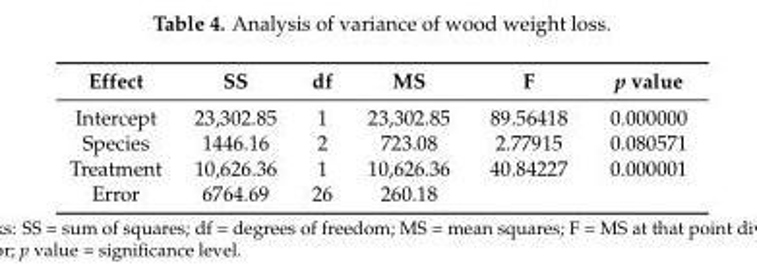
<table><thead><tr><td>Effect</td><td>SS</td><td>df</td><td>MS</td><td>F</td><td>p value</td></tr></thead><tbody><tr><td>Intercept</td><td>23,302.85</td><td>1</td><td>23,302.85</td><td>89.56418</td><td>0.000000</td></tr><tr><td>Species</td><td>1446.16</td><td>2</td><td>723.08</td><td>2.77915</td><td>0.080571</td></tr><tr><td>Treatment</td><td>10,626.36</td><td>1</td><td>10,626.36</td><td>40.84227</td><td>0.000001</td></tr><tr><td>Error</td><td>6764.69</td><td>26</td><td>260.18</td><td></td><td></td></tr></tbody></table>